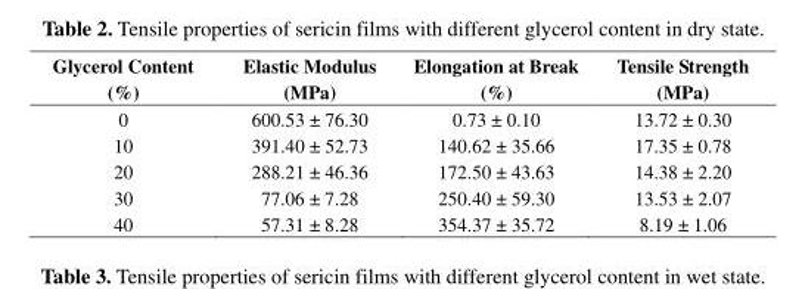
<table><thead><tr><td>Glycerol Content (%)</td><td>Elastic Modulus (MPa)</td><td>Elongation at Break (%)</td><td>Tensile Strength (MPa)</td></tr></thead><tbody><tr><td>0</td><td>600.53 ± 76.30</td><td>0.73 ± 0.10</td><td>13.72 ± 0.30</td></tr><tr><td>10</td><td>391.40 ± 52.73</td><td>140.62 ± 35.66</td><td>17.35 ± 0.78</td></tr><tr><td>20</td><td>288.21 ± 46.36</td><td>172.50 ± 43.63</td><td>14.38 ± 2.20</td></tr><tr><td>30</td><td>77.06 ± 7.28</td><td>250.40 ± 59.30</td><td>13.53 ± 2.07</td></tr><tr><td>40</td><td>57.31 ± 8.28</td><td>354.37 ± 35.72</td><td>8.19 ± 1.06</td></tr></tbody></table>